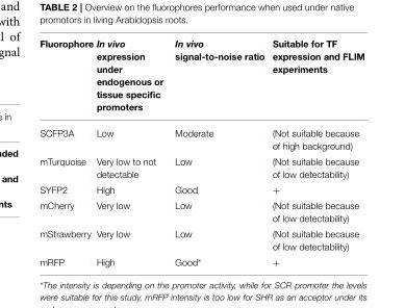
<table><thead><tr><td>Fluorophore</td><td>In vivo expression under endogenous or tissue specific promoters</td><td>In vivo signal-to-noise ratio</td><td>Suitable for TF expression and FLIM experiments</td></tr></thead><tbody><tr><td>SCFP3A</td><td>Low</td><td>Moderate</td><td>(Not suitable because of high background)</td></tr><tr><td>mTurquoise</td><td>Very low to not detectable</td><td>Low</td><td>(Not suitable because of low detectability)</td></tr><tr><td>SYFP2</td><td>High</td><td>Good</td><td>+</td></tr><tr><td>mCherry</td><td>Very low</td><td>Low</td><td>(Not suitable because of low detectability)</td></tr><tr><td>mStrawberry</td><td>Very low</td><td>Low</td><td>(Not suitable because of low detectability)</td></tr><tr><td>mRFP</td><td>High</td><td>Good*</td><td>+</td></tr></tbody></table>